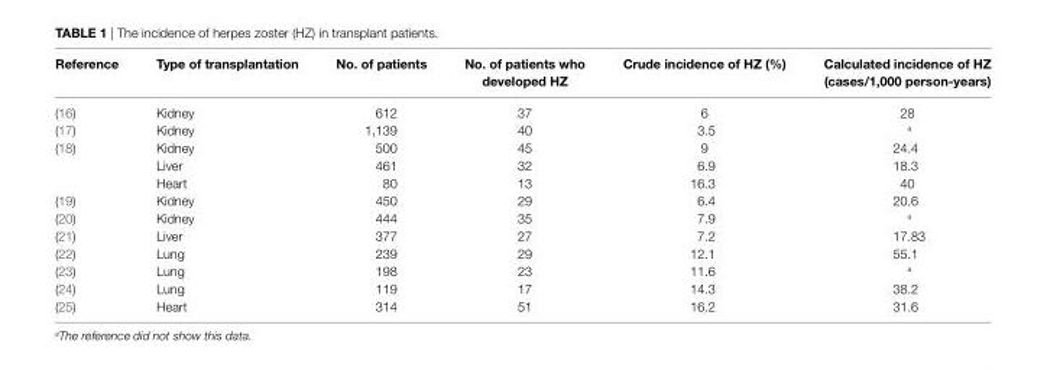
<table><thead><tr><td>Reference</td><td>Type of transplantation</td><td>No. of patients</td><td>No. of patients who developed HZ</td><td>Crude incidence of HZ (%)</td><td>Calculated incidence of HZ (cases/1,000 person-years)</td></tr></thead><tbody><tr><td>(16)</td><td>Kidney</td><td>612</td><td>37</td><td>6</td><td>28</td></tr><tr><td>(17)</td><td>Kidney</td><td>1,139</td><td>40</td><td>3.5</td><td><sup>a</sup></td></tr><tr><td rowspan="3">(18)</td><td>Kidney</td><td>500</td><td>45</td><td>9</td><td>24.4</td></tr><tr><td>Liver</td><td>461</td><td>32</td><td>6.9</td><td>18.3</td></tr><tr><td>Heart</td><td>80</td><td>13</td><td>16.3</td><td>40</td></tr><tr><td>(19)</td><td>Kidney</td><td>450</td><td>29</td><td>6.4</td><td>20.6</td></tr><tr><td>(20)</td><td>Kidney</td><td>444</td><td>35</td><td>7.9</td><td><sup>a</sup></td></tr><tr><td>(21)</td><td>Liver</td><td>377</td><td>27</td><td>7.2</td><td>17.83</td></tr><tr><td>(22)</td><td>Lung</td><td>239</td><td>29</td><td>12.1</td><td>55.1</td></tr><tr><td>(23)</td><td>Lung</td><td>198</td><td>23</td><td>11.6</td><td><sup>a</sup></td></tr><tr><td>(24)</td><td>Lung</td><td>119</td><td>17</td><td>14.3</td><td>38.2</td></tr><tr><td>(25)</td><td>Heart</td><td>314</td><td>51</td><td>16.2</td><td>31.6</td></tr></tbody></table>